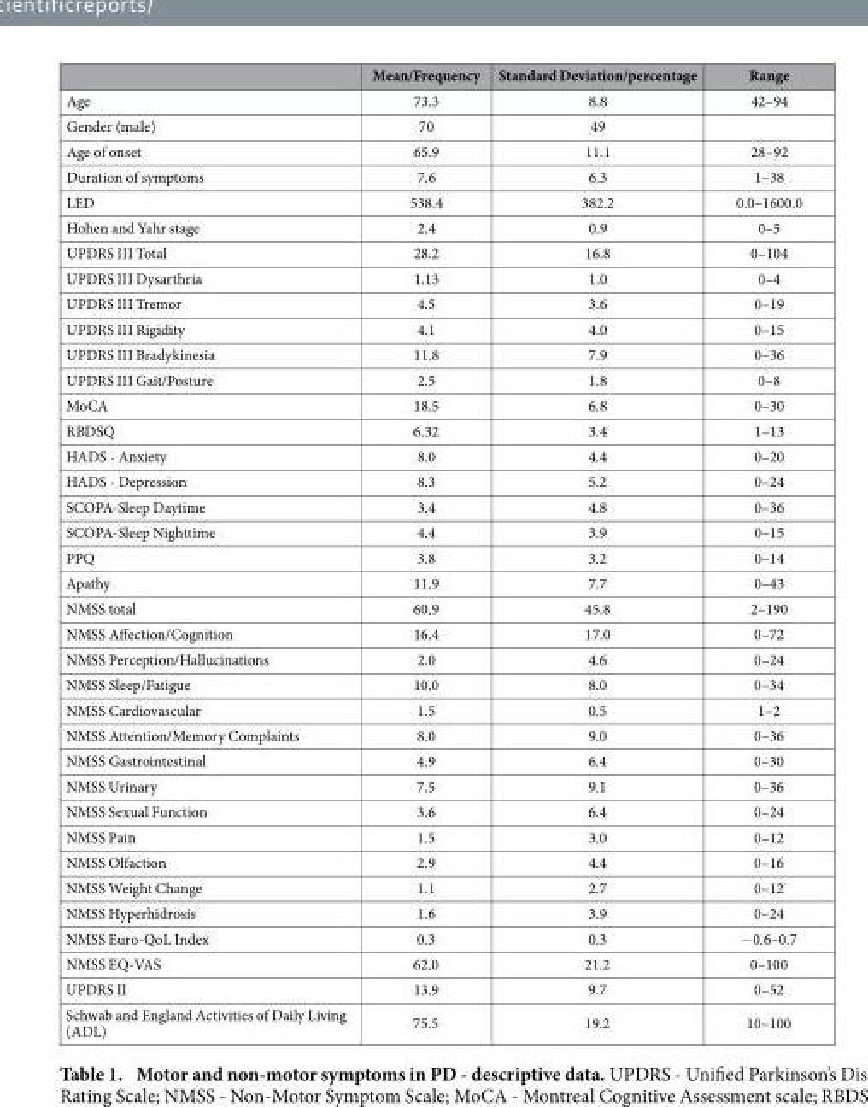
<table><thead><tr><td></td><td>Mean/Frequency</td><td>Standard Deviation/percentage</td><td>Range</td></tr></thead><tbody><tr><td>Age</td><td>73.3</td><td>8.8</td><td>42–94</td></tr><tr><td>Gender (male)</td><td>70</td><td>49</td><td></td></tr><tr><td>Age of onset</td><td>65.9</td><td>11.1</td><td>28–92</td></tr><tr><td>Duration of symptoms</td><td>7.6</td><td>6.3</td><td>1–38</td></tr><tr><td>LED</td><td>538.4</td><td>382.2</td><td>0.0–1600.0</td></tr><tr><td>Hohen and Yahr stage</td><td>2.4</td><td>0.9</td><td>0–5</td></tr><tr><td>UPDRS III Total</td><td>28.2</td><td>16.8</td><td>0–104</td></tr><tr><td>UPDRS III Dysarthria</td><td>1.13</td><td>1.0</td><td>0–4</td></tr><tr><td>UPDRS III Tremor</td><td>4.5</td><td>3.6</td><td>0–19</td></tr><tr><td>UPDRS III Rigidity</td><td>4.1</td><td>4.0</td><td>0–15</td></tr><tr><td>UPDRS III Bradykinesia</td><td>11.8</td><td>7.9</td><td>0–36</td></tr><tr><td>UPDRS III Gait/Posture</td><td>2.5</td><td>1.8</td><td>0–8</td></tr><tr><td>MoCA</td><td>18.5</td><td>6.8</td><td>0–30</td></tr><tr><td>RBDSQ</td><td>6.32</td><td>3.4</td><td>1–13</td></tr><tr><td>HADS - Anxiety</td><td>8.0</td><td>4.4</td><td>0–20</td></tr><tr><td>HADS - Depression</td><td>8.3</td><td>5.2</td><td>0–24</td></tr><tr><td>SCOPA-Sleep Daytime</td><td>3.4</td><td>4.8</td><td>0–36</td></tr><tr><td>SCOPA-Sleep Nighttime</td><td>4.4</td><td>3.9</td><td>0–15</td></tr><tr><td>PPQ</td><td>3.8</td><td>3.2</td><td>0–14</td></tr><tr><td>Apathy</td><td>11.9</td><td>7.7</td><td>0–43</td></tr><tr><td>NMSS total</td><td>60.9</td><td>45.8</td><td>2–190</td></tr><tr><td>NMSS Affection/Cognition</td><td>16.4</td><td>17.0</td><td>0–72</td></tr><tr><td>NMSS Perception/Hallucinations</td><td>2.0</td><td>4.6</td><td>0–24</td></tr><tr><td>NMSS Sleep/Fatigue</td><td>10.0</td><td>8.0</td><td>0–34</td></tr><tr><td>NMSS Cardiovascular</td><td>1.5</td><td>0.5</td><td>1–2</td></tr><tr><td>NMSS Attention/Memory Complaints</td><td>8.0</td><td>9.0</td><td>0–36</td></tr><tr><td>NMSS Gastrointestinal</td><td>4.9</td><td>6.4</td><td>0–30</td></tr><tr><td>NMSS Urinary</td><td>7.5</td><td>9.1</td><td>0–36</td></tr><tr><td>NMSS Sexual Function</td><td>3.6</td><td>6.4</td><td>0–24</td></tr><tr><td>NMSS Pain</td><td>1.5</td><td>3.0</td><td>0–12</td></tr><tr><td>NMSS Olfaction</td><td>2.9</td><td>4.4</td><td>0–16</td></tr><tr><td>NMSS Weight Change</td><td>1.1</td><td>2.7</td><td>0–12</td></tr><tr><td>NMSS Hyperhidrosis</td><td>1.6</td><td>3.9</td><td>0–24</td></tr><tr><td>NMSS Euro-QoL Index</td><td>0.3</td><td>0.3</td><td>−0.6–0.7</td></tr><tr><td>NMSS EQ-VAS</td><td>62.0</td><td>21.2</td><td>0–100</td></tr><tr><td>UPDRS II</td><td>13.9</td><td>9.7</td><td>0–52</td></tr><tr><td>Schwab and England Activities of Daily Living (ADL)</td><td>75.5</td><td>19.2</td><td>10–100</td></tr></tbody></table>